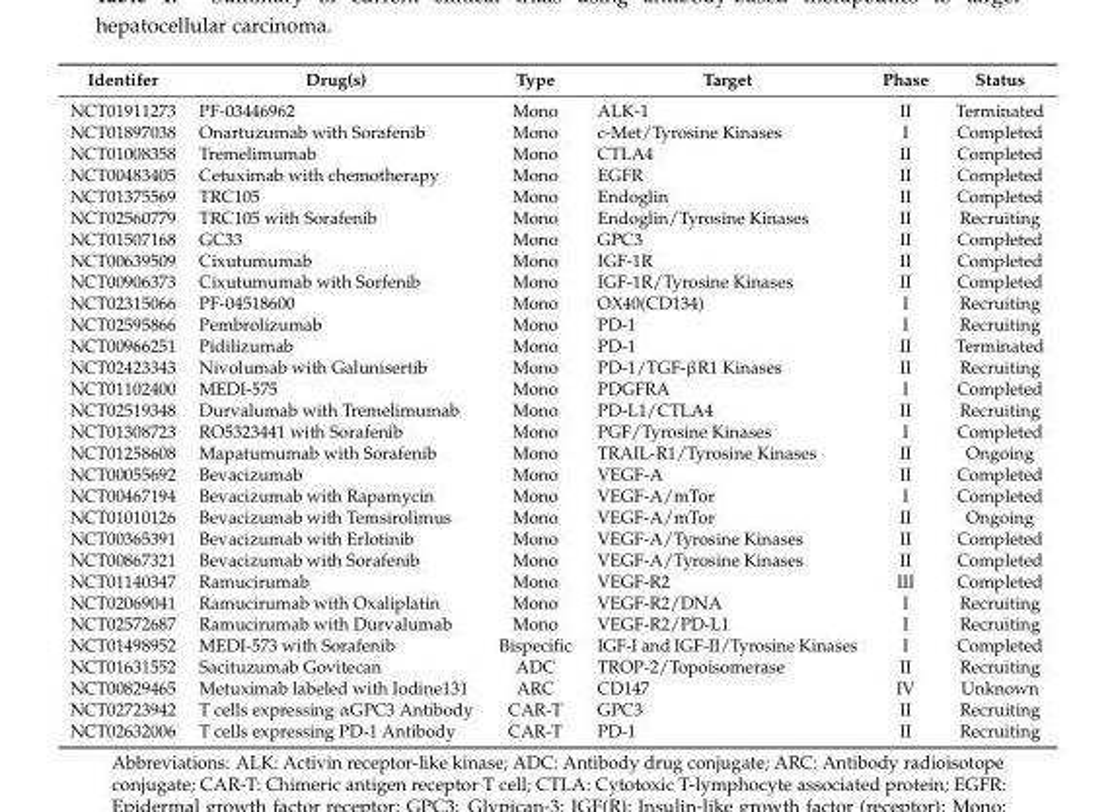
<table><thead><tr><td>Identifer</td><td>Drug(s)</td><td>Type</td><td>Target</td><td>Phase</td><td>Status</td></tr></thead><tbody><tr><td>NCT01911273</td><td>PF-03446962</td><td>Mono</td><td>ALK-1</td><td>II</td><td>Terminated</td></tr><tr><td>NCT01897038</td><td>Onartuzumab with Sorafenib</td><td>Mono</td><td>c-Met/Tyrosine Kinases</td><td>I</td><td>Completed</td></tr><tr><td>NCT01008358</td><td>Tremelimumab</td><td>Mono</td><td>CTLA4</td><td>II</td><td>Completed</td></tr><tr><td>NCT00483405</td><td>Cetuximab with chemotherapy</td><td>Mono</td><td>EGFR</td><td>II</td><td>Completed</td></tr><tr><td>NCT01375569</td><td>TRC105</td><td>Mono</td><td>Endoglin</td><td>II</td><td>Completed</td></tr><tr><td>NCT02560779</td><td>TRC105 with Sorafenib</td><td>Mono</td><td>Endoglin/Tyrosine Kinases</td><td>II</td><td>Recruiting</td></tr><tr><td>NCT01507168</td><td>GC33</td><td>Mono</td><td>GPC3</td><td>II</td><td>Completed</td></tr><tr><td>NCT00639509</td><td>Cixutumumab</td><td>Mono</td><td>IGF-1R</td><td>II</td><td>Completed</td></tr><tr><td>NCT00906373</td><td>Cixutumumab with Sorfenib</td><td>Mono</td><td>IGF-1R/Tyrosine Kinases</td><td>II</td><td>Completed</td></tr><tr><td>NCT02315066</td><td>PF-04518600</td><td>Mono</td><td>OX40(CD134)</td><td>I</td><td>Recruiting</td></tr><tr><td>NCT02595866</td><td>Pembrolizumab</td><td>Mono</td><td>PD-1</td><td>I</td><td>Recruiting</td></tr><tr><td>NCT00966251</td><td>Pidilizumab</td><td>Mono</td><td>PD-1</td><td>II</td><td>Terminated</td></tr><tr><td>NCT02423343</td><td>Nivolumab with Galunisertib</td><td>Mono</td><td>PD-1/TGF-βR1 Kinases</td><td>II</td><td>Recruiting</td></tr><tr><td>NCT01102400</td><td>MEDI-575</td><td>Mono</td><td>PDGFRA</td><td>I</td><td>Completed</td></tr><tr><td>NCT02519348</td><td>Durvalumab with Tremelimumab</td><td>Mono</td><td>PD-L1/CTLA4</td><td>II</td><td>Recruiting</td></tr><tr><td>NCT01308723</td><td>RO5323441 with Sorafenib</td><td>Mono</td><td>PGF/Tyrosine Kinases</td><td>I</td><td>Completed</td></tr><tr><td>NCT01258608</td><td>Mapatumumab with Sorafenib</td><td>Mono</td><td>TRAIL-R1/Tyrosine Kinases</td><td>II</td><td>Ongoing</td></tr><tr><td>NCT00055692</td><td>Bevacizumab</td><td>Mono</td><td>VEGF-A</td><td>II</td><td>Completed</td></tr><tr><td>NCT00467194</td><td>Bevacizumab with Rapamycin</td><td>Mono</td><td>VEGF-A/mTor</td><td>I</td><td>Completed</td></tr><tr><td>NCT01010126</td><td>Bevacizumab with Temsirolimus</td><td>Mono</td><td>VEGF-A/mTor</td><td>II</td><td>Ongoing</td></tr><tr><td>NCT00365391</td><td>Bevacizumab with Erlotinib</td><td>Mono</td><td>VEGF-A/Tyrosine Kinases</td><td>II</td><td>Completed</td></tr><tr><td>NCT00867321</td><td>Bevacizumab with Sorafenib</td><td>Mono</td><td>VEGF-A/Tyrosine Kinases</td><td>II</td><td>Completed</td></tr><tr><td>NCT01140347</td><td>Ramucirumab</td><td>Mono</td><td>VEGF-R2</td><td>III</td><td>Completed</td></tr><tr><td>NCT02069041</td><td>Ramucirumab with Oxaliplatin</td><td>Mono</td><td>VEGF-R2/DNA</td><td>I</td><td>Recruiting</td></tr><tr><td>NCT02572687</td><td>Ramucirumab with Durvalumab</td><td>Mono</td><td>VEGF-R2/PD-L1</td><td>I</td><td>Recruiting</td></tr><tr><td>NCT01498952</td><td>MEDI-573 with Sorafenib</td><td>Bispecific</td><td>IGF-I and IGF-II/Tyrosine Kinases</td><td>I</td><td>Completed</td></tr><tr><td>NCT01631552</td><td>Sacituzumab Govitecan</td><td>ADC</td><td>TROP-2/Topoisomerase</td><td>II</td><td>Recruiting</td></tr><tr><td>NCT00829465</td><td>Metuximab labeled with Iodine131</td><td>ARC</td><td>CD147</td><td>IV</td><td>Unknown</td></tr><tr><td>NCT02723942</td><td>T cells expressing αGPC3 Antibody</td><td>CAR-T</td><td>GPC3</td><td>II</td><td>Recruiting</td></tr><tr><td>NCT02632006</td><td>T cells expressing PD-1 Antibody</td><td>CAR-T</td><td>PD-1</td><td>II</td><td>Recruiting</td></tr></tbody></table>